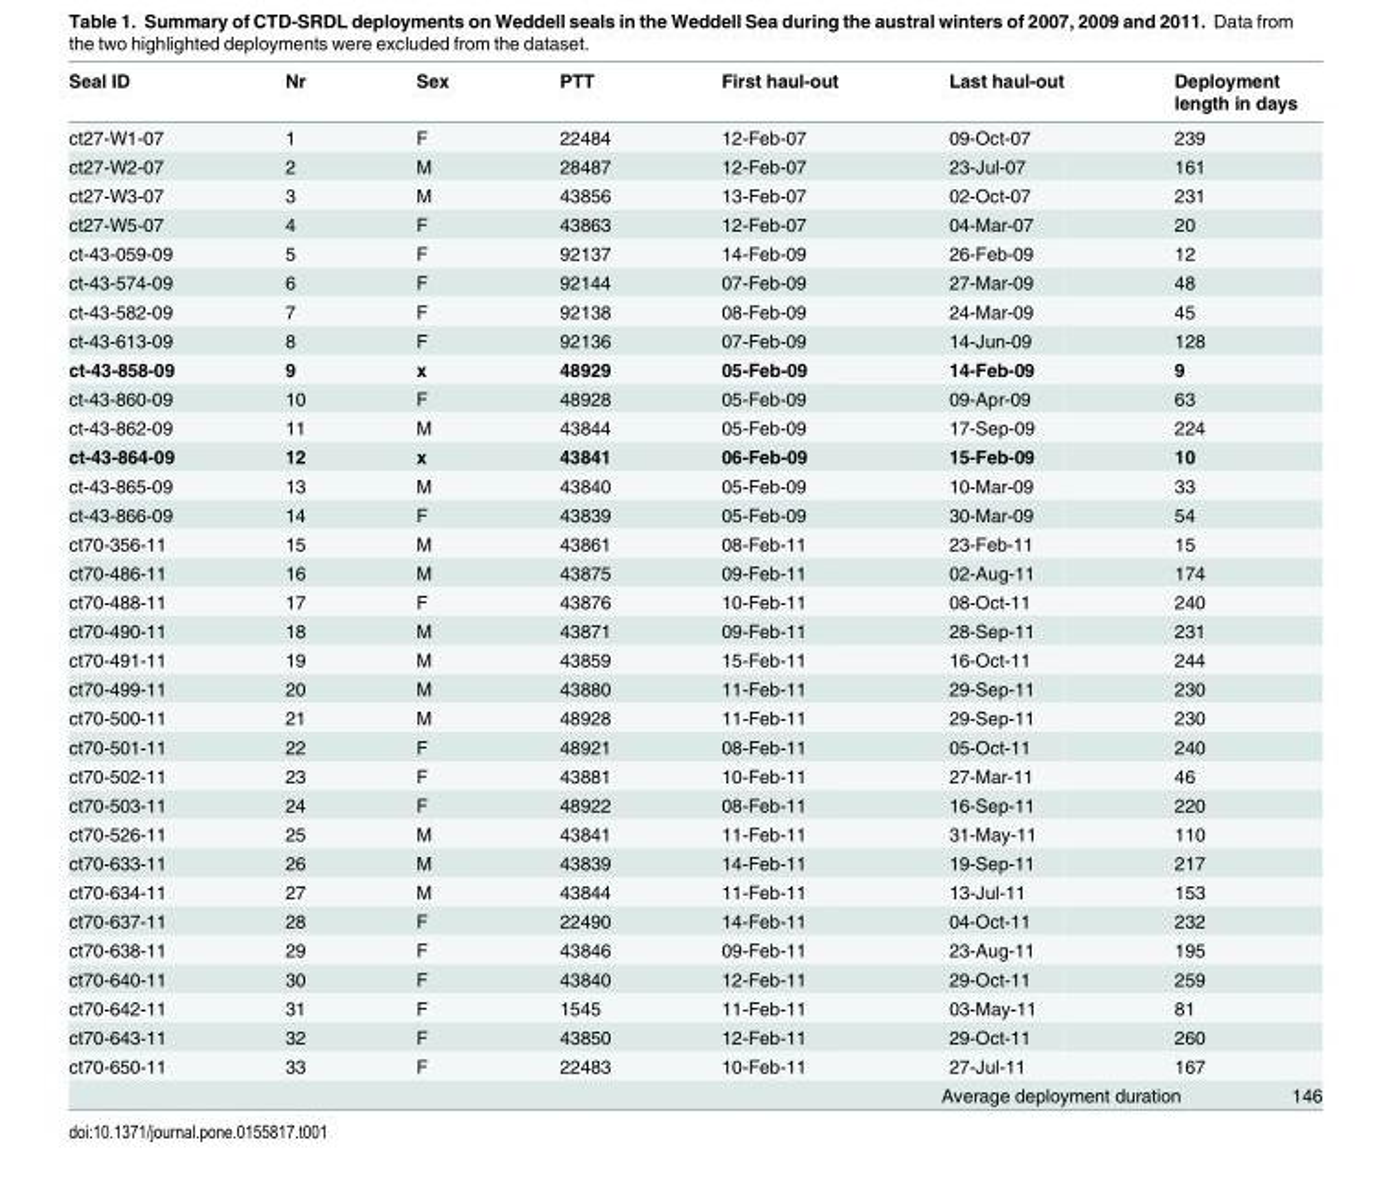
<table><thead><tr><td>Seal ID</td><td>Nr</td><td>Sex</td><td>PTT</td><td>First haul-out</td><td>Last haul-out</td><td colspan="2">Deployment length in days</td></tr></thead><tbody><tr><td>ct27-W1-07</td><td>1</td><td>F</td><td>22484</td><td>12-Feb-07</td><td>09-Oct-07</td><td colspan="2">239</td></tr><tr><td>ct27-W2-07</td><td>2</td><td>M</td><td>28487</td><td>12-Feb-07</td><td>23-Jul-07</td><td colspan="2">161</td></tr><tr><td>ct27-W3-07</td><td>3</td><td>M</td><td>43856</td><td>13-Feb-07</td><td>02-Oct-07</td><td colspan="2">231</td></tr><tr><td>ct27-W5-07</td><td>4</td><td>F</td><td>43863</td><td>12-Feb-07</td><td>04-Mar-07</td><td colspan="2">20</td></tr><tr><td>ct-43-059-09</td><td>5</td><td>F</td><td>92137</td><td>14-Feb-09</td><td>26-Feb-09</td><td colspan="2">12</td></tr><tr><td>ct-43-574-09</td><td>6</td><td>F</td><td>92144</td><td>07-Feb-09</td><td>27-Mar-09</td><td colspan="2">48</td></tr><tr><td>ct-43-582-09</td><td>7</td><td>F</td><td>92138</td><td>08-Feb-09</td><td>24-Mar-09</td><td colspan="2">45</td></tr><tr><td>ct-43-613-09</td><td>8</td><td>F</td><td>92136</td><td>07-Feb-09</td><td>14-Jun-09</td><td colspan="2">128</td></tr><tr><td>ct-43-858-09</td><td>9</td><td>x</td><td>48929</td><td>05-Feb-09</td><td>14-Feb-09</td><td colspan="2">9</td></tr><tr><td>ct-43-860-09</td><td>10</td><td>F</td><td>48928</td><td>05-Feb-09</td><td>09-Apr-09</td><td colspan="2">63</td></tr><tr><td>ct-43-862-09</td><td>11</td><td>M</td><td>43844</td><td>05-Feb-09</td><td>17-Sep-09</td><td colspan="2">224</td></tr><tr><td>ct-43-864-09</td><td>12</td><td>x</td><td>43841</td><td>06-Feb-09</td><td>15-Feb-09</td><td colspan="2">10</td></tr><tr><td>ct-43-865-09</td><td>13</td><td>M</td><td>43840</td><td>05-Feb-09</td><td>10-Mar-09</td><td colspan="2">33</td></tr><tr><td>ct-43-866-09</td><td>14</td><td>F</td><td>43839</td><td>05-Feb-09</td><td>30-Mar-09</td><td colspan="2">54</td></tr><tr><td>ct70-356-11</td><td>15</td><td>M</td><td>43861</td><td>08-Feb-11</td><td>23-Feb-11</td><td colspan="2">15</td></tr><tr><td>ct70-486-11</td><td>16</td><td>M</td><td>43875</td><td>09-Feb-11</td><td>02-Aug-11</td><td colspan="2">174</td></tr><tr><td>ct70-488-11</td><td>17</td><td>F</td><td>43876</td><td>10-Feb-11</td><td>08-Oct-11</td><td colspan="2">240</td></tr><tr><td>ct70-490-11</td><td>18</td><td>M</td><td>43871</td><td>09-Feb-11</td><td>28-Sep-11</td><td colspan="2">231</td></tr><tr><td>ct70-491-11</td><td>19</td><td>M</td><td>43859</td><td>15-Feb-11</td><td>16-Oct-11</td><td colspan="2">244</td></tr><tr><td>ct70-499-11</td><td>20</td><td>M</td><td>43880</td><td>11-Feb-11</td><td>29-Sep-11</td><td colspan="2">230</td></tr><tr><td>ct70-500-11</td><td>21</td><td>M</td><td>48928</td><td>11-Feb-11</td><td>29-Sep-11</td><td colspan="2">230</td></tr><tr><td>ct70-501-11</td><td>22</td><td>F</td><td>48921</td><td>08-Feb-11</td><td>05-Oct-11</td><td colspan="2">240</td></tr><tr><td>ct70-502-11</td><td>23</td><td>F</td><td>43881</td><td>10-Feb-11</td><td>27-Mar-11</td><td colspan="2">46</td></tr><tr><td>ct70-503-11</td><td>24</td><td>F</td><td>48922</td><td>08-Feb-11</td><td>16-Sep-11</td><td colspan="2">220</td></tr><tr><td>ct70-526-11</td><td>25</td><td>M</td><td>43841</td><td>11-Feb-11</td><td>31-May-11</td><td colspan="2">110</td></tr><tr><td>ct70-633-11</td><td>26</td><td>M</td><td>43839</td><td>14-Feb-11</td><td>19-Sep-11</td><td colspan="2">217</td></tr><tr><td>ct70-634-11</td><td>27</td><td>M</td><td>43844</td><td>11-Feb-11</td><td>13-Jul-11</td><td colspan="2">153</td></tr><tr><td>ct70-637-11</td><td>28</td><td>F</td><td>22490</td><td>14-Feb-11</td><td>04-Oct-11</td><td colspan="2">232</td></tr><tr><td>ct70-638-11</td><td>29</td><td>F</td><td>43846</td><td>09-Feb-11</td><td>23-Aug-11</td><td colspan="2">195</td></tr><tr><td>ct70-640-11</td><td>30</td><td>F</td><td>43840</td><td>12-Feb-11</td><td>29-Oct-11</td><td colspan="2">259</td></tr><tr><td>ct70-642-11</td><td>31</td><td>F</td><td>1545</td><td>11-Feb-11</td><td>03-May-11</td><td colspan="2">81</td></tr><tr><td>ct70-643-11</td><td>32</td><td>F</td><td>43850</td><td>12-Feb-11</td><td>29-Oct-11</td><td colspan="2">260</td></tr><tr><td>ct70-650-11</td><td>33</td><td>F</td><td>22483</td><td>10-Feb-11</td><td>27-Jul-11</td><td colspan="2">167</td></tr><tr><td colspan="7">Average deployment duration</td><td>146</td></tr></tbody></table>